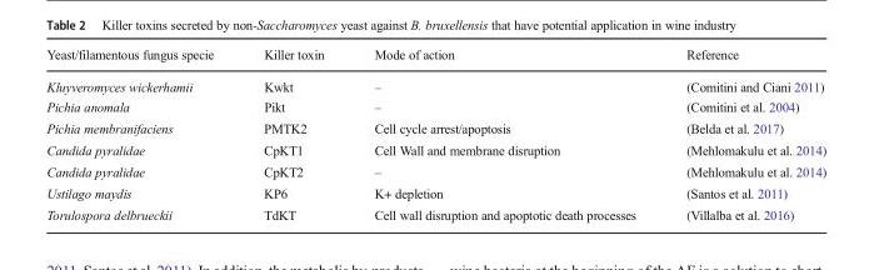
<table><thead><tr><td>Yeast/filamentous fungus specie</td><td>Killer toxin</td><td>Mode of action</td><td>Reference</td></tr></thead><tbody><tr><td>Kluyveromyces wickerhamii</td><td>Kwkt</td><td>–</td><td>(Comitini and Ciani 2011)</td></tr><tr><td>Pichia anomala</td><td>Pikt</td><td>–</td><td>(Comitini et al. 2004)</td></tr><tr><td>Pichia membranifaciens</td><td>PMTK2</td><td>Cell cycle arrest/apoptosis</td><td>(Belda et al. 2017)</td></tr><tr><td>Candida pyralidae</td><td>CpKT1</td><td>Cell Wall and membrane disruption</td><td>(Mehlomakulu et al. 2014)</td></tr><tr><td>Candida pyralidae</td><td>CpKT2</td><td>–</td><td>(Mehlomakulu et al. 2014)</td></tr><tr><td>Ustilago maydis</td><td>KP6</td><td>K+ depletion</td><td>(Santos et al. 2011)</td></tr><tr><td>Torulospora delbrueckii</td><td>TdKT</td><td>Cell wall disruption and apoptotic death processes</td><td>(Villalba et al. 2016)</td></tr></tbody></table>